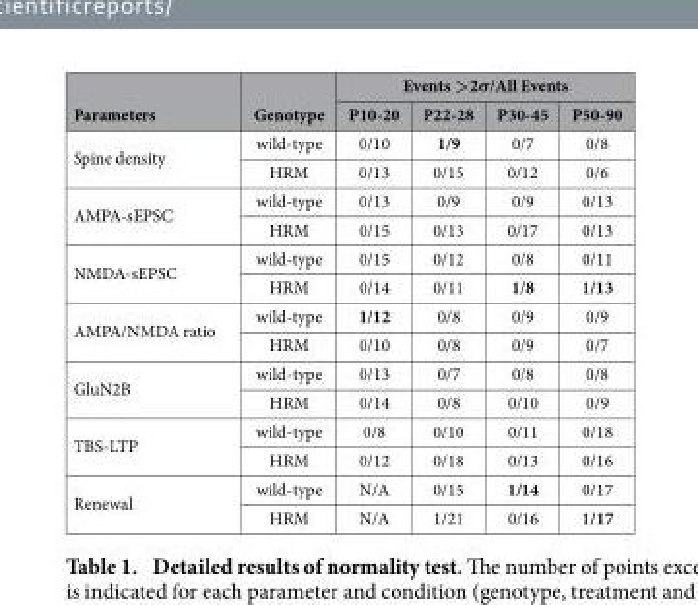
<table><thead><tr><td rowspan="2">Parameters</td><td rowspan="2">Genotype</td><td colspan="4">Events &gt;2σ/All Events</td></tr><tr><td>P10-20</td><td>P22-28</td><td>P30-45</td><td>P50-90</td></tr></thead><tbody><tr><td rowspan="2">Spine density</td><td>wild-type</td><td>0/10</td><td>1/9</td><td>0/7</td><td>0/8</td></tr><tr><td>HRM</td><td>0/13</td><td>0/15</td><td>0/12</td><td>0/6</td></tr><tr><td rowspan="2">AMPA-sEPSC</td><td>wild-type</td><td>0/13</td><td>0/9</td><td>0/9</td><td>0/13</td></tr><tr><td>HRM</td><td>0/15</td><td>0/13</td><td>0/17</td><td>0/13</td></tr><tr><td rowspan="2">NMDA-sEPSC</td><td>wild-type</td><td>0/15</td><td>0/12</td><td>0/8</td><td>0/11</td></tr><tr><td>HRM</td><td>0/14</td><td>0/11</td><td>1/8</td><td>1/13</td></tr><tr><td rowspan="2">AMPA/NMDA ratio</td><td>wild-type</td><td>1/12</td><td>0/8</td><td>0/9</td><td>0/9</td></tr><tr><td>HRM</td><td>0/10</td><td>0/8</td><td>0/9</td><td>0/7</td></tr><tr><td rowspan="2">GluN2B</td><td>wild-type</td><td>0/13</td><td>0/7</td><td>0/8</td><td>0/8</td></tr><tr><td>HRM</td><td>0/14</td><td>0/8</td><td>0/10</td><td>0/9</td></tr><tr><td rowspan="2">TBS-LTP</td><td>wild-type</td><td>0/8</td><td>0/10</td><td>0/11</td><td>0/18</td></tr><tr><td>HRM</td><td>0/12</td><td>0/18</td><td>0/13</td><td>0/16</td></tr><tr><td rowspan="2">Renewal</td><td>wild-type</td><td>N/A</td><td>0/15</td><td>1/14</td><td>0/17</td></tr><tr><td>HRM</td><td>N/A</td><td>1/21</td><td>0/16</td><td>1/17</td></tr></tbody></table>